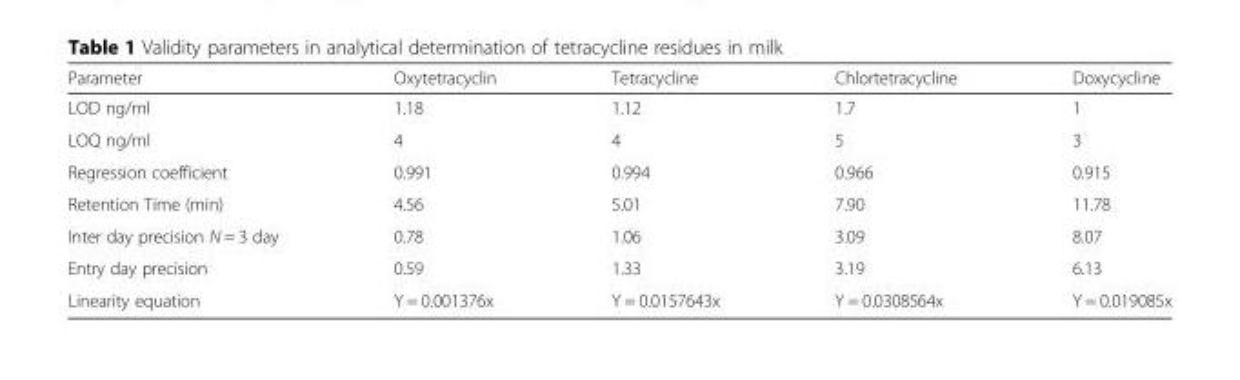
<table><thead><tr><td>Parameter</td><td>Oxytetracyclin</td><td>Tetracycline</td><td>Chlortetracycline</td><td>Doxycycline</td></tr></thead><tbody><tr><td>LOD ng/ml</td><td>1.18</td><td>1.12</td><td>1.7</td><td>1</td></tr><tr><td>LOQ ng/ml</td><td>4</td><td>4</td><td>5</td><td>3</td></tr><tr><td>Regression coefficient</td><td>0.991</td><td>0.994</td><td>0.966</td><td>0.915</td></tr><tr><td>Retention Time (min)</td><td>4.56</td><td>5.01</td><td>7.90</td><td>11.78</td></tr><tr><td>Inter day precision N = 3 day</td><td>0.78</td><td>1.06</td><td>3.09</td><td>8.07</td></tr><tr><td>Entry day precision</td><td>0.59</td><td>1.33</td><td>3.19</td><td>6.13</td></tr><tr><td>Linearity equation</td><td>Y = 0.001376x</td><td>Y = 0.0157643x</td><td>Y = 0.0308564x</td><td>Y = 0.019085x</td></tr></tbody></table>